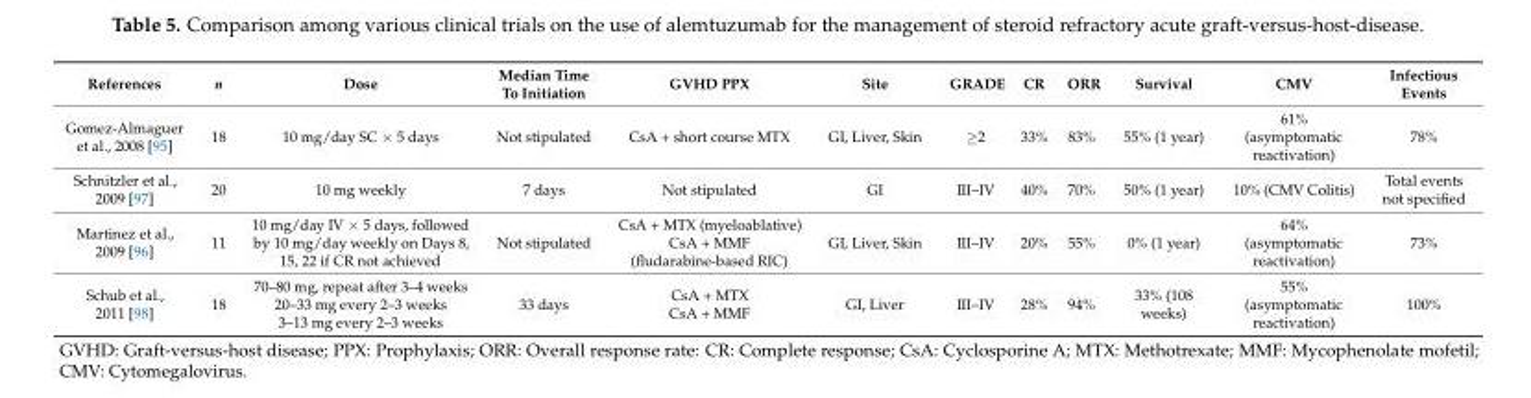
<table><thead><tr><td>References</td><td>n</td><td>Dose</td><td>Median Time To Initiation</td><td>GVHD PPX</td><td>Site</td><td>GRADE</td><td>CR</td><td>ORR</td><td>Survival</td><td>CMV</td><td>Infectious Events</td></tr></thead><tbody><tr><td>Gomez-Almaguer et al., 2008 [95]</td><td>18</td><td>10 mg/day SC × 5 days</td><td>Not stipulated</td><td>CsA + short course MTX</td><td>GI, Liver, Skin</td><td>≥2</td><td>33%</td><td>83%</td><td>55% (1 year)</td><td>61% (asymptomatic reactivation)</td><td>78%</td></tr><tr><td>Schnitzler et al., 2009 [97]</td><td>20</td><td>10 mg weekly</td><td>7 days</td><td>Not stipulated</td><td>GI</td><td>III–IV</td><td>40%</td><td>70%</td><td>50% (1 year)</td><td>10% (CMV Colitis)</td><td>Total events not specified</td></tr><tr><td>Martinez et al., 2009 [96]</td><td>11</td><td>10 mg/day IV × 5 days, followed by 10 mg/day weekly on Days 8, 15, 22 if CR not achieved</td><td>Not stipulated</td><td>CsA + MTX (myeloablative) CsA + MMF (fludarabine-based RIC)</td><td>GI, Liver, Skin</td><td>III–IV</td><td>20%</td><td>55%</td><td>0% (1 year)</td><td>64% (asymptomatic reactivation)</td><td>73%</td></tr><tr><td>Schub et al., 2011 [98]</td><td>18</td><td>70–80 mg, repeat after 3–4 weeks 20–33 mg every 2–3 weeks 3–13 mg every 2–3 weeks</td><td>33 days</td><td>CsA + MTX CsA + MMF</td><td>GI, Liver</td><td>III–IV</td><td>28%</td><td>94%</td><td>33% (108 weeks)</td><td>55% (asymptomatic reactivation)</td><td>100%</td></tr></tbody></table>